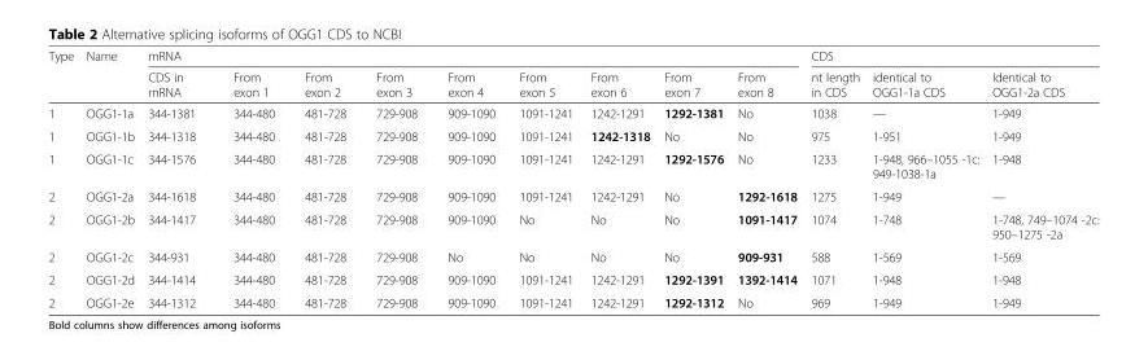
<table><thead><tr><td rowspan="2">Type</td><td rowspan="2">Name</td><td colspan="9">mRNA</td><td colspan="3">CDS</td></tr><tr><td>CDS in mRNA</td><td>From exon 1</td><td>From exon 2</td><td>From exon 3</td><td>From exon 4</td><td>From exon 5</td><td>From exon 6</td><td>From exon 7</td><td>From exon 8</td><td>nt length in CDS</td><td>identical to OGG1-1a CDS</td><td>Identical to OGG1-2a CDS</td></tr></thead><tbody><tr><td>1</td><td>OGG1-1a</td><td>344-1381</td><td>344-480</td><td>481-728</td><td>729-908</td><td>909-1090</td><td>1091-1241</td><td>1242-1291</td><td>1292-1381</td><td>No</td><td>1038</td><td>—</td><td>1-949</td></tr><tr><td>1</td><td>OGG1-1b</td><td>344-1318</td><td>344-480</td><td>481-728</td><td>729-908</td><td>909-1090</td><td>1091-1241</td><td>1242-1318</td><td>No</td><td>No</td><td>975</td><td>1-951</td><td>1-949</td></tr><tr><td>1</td><td>OGG1-1c</td><td>344-1576</td><td>344-480</td><td>481-728</td><td>729-908</td><td>909-1090</td><td>1091-1241</td><td>1242-1291</td><td>1292-1576</td><td>No</td><td>1233</td><td>1-948, 966–1055 -1c: 949-1038-1a</td><td>1-948</td></tr><tr><td>2</td><td>OGG1-2a</td><td>344-1618</td><td>344-480</td><td>481-728</td><td>729-908</td><td>909-1090</td><td>1091-1241</td><td>1242-1291</td><td>No</td><td>1292-1618</td><td>1275</td><td>1-949</td><td>—</td></tr><tr><td>2</td><td>OGG1-2b</td><td>344-1417</td><td>344-480</td><td>481-728</td><td>729-908</td><td>909-1090</td><td>No</td><td>No</td><td>No</td><td>1091-1417</td><td>1074</td><td>1-748</td><td>1-748, 749–1074 -2c: 950–1275 -2a</td></tr><tr><td>2</td><td>OGG1-2c</td><td>344-931</td><td>344-480</td><td>481-728</td><td>729-908</td><td>No</td><td>No</td><td>No</td><td>No</td><td>909-931</td><td>588</td><td>1-569</td><td>1-569</td></tr><tr><td>2</td><td>OGG1-2d</td><td>344-1414</td><td>344-480</td><td>481-728</td><td>729-908</td><td>909-1090</td><td>1091-1241</td><td>1242-1291</td><td>1292-1391</td><td>1392-1414</td><td>1071</td><td>1-948</td><td>1-948</td></tr><tr><td>2</td><td>OGG1-2e</td><td>344-1312</td><td>344-480</td><td>481-728</td><td>729-908</td><td>909-1090</td><td>1091-1241</td><td>1242-1291</td><td>1292-1312</td><td>No</td><td>969</td><td>1-949</td><td>1-949</td></tr></tbody></table>